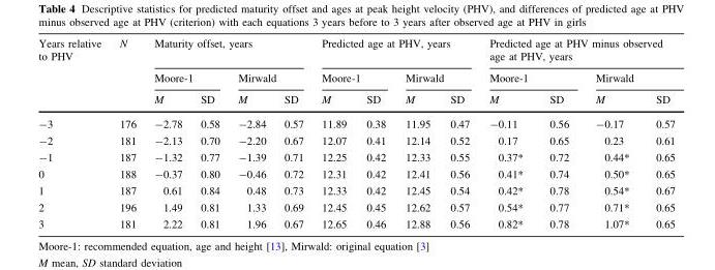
<table><thead><tr><td rowspan="3">Years relative to PHV</td><td rowspan="3">N</td><td colspan="4">Maturity offset, years</td><td colspan="4">Predicted age at PHV, years</td><td colspan="4">Predicted age at PHV minus observed age at PHV, years</td></tr><tr><td colspan="2">Moore-1</td><td colspan="2">Mirwald</td><td colspan="2">Moore-1</td><td colspan="2">Mirwald</td><td colspan="2">Moore-1</td><td colspan="2">Mirwald</td></tr><tr><td>M</td><td>SD</td><td>M</td><td>SD</td><td>M</td><td>SD</td><td>M</td><td>SD</td><td>M</td><td>SD</td><td>M</td><td>SD</td></tr></thead><tbody><tr><td>-3</td><td>176</td><td>-2.78</td><td>0.58</td><td>-2.84</td><td>0.57</td><td>11.89</td><td>0.38</td><td>11.95</td><td>0.47</td><td>-0.11</td><td>0.56</td><td>-0.17</td><td>0.57</td></tr><tr><td>-2</td><td>181</td><td>-2.13</td><td>0.70</td><td>-2.20</td><td>0.67</td><td>12.07</td><td>0.41</td><td>12.14</td><td>0.52</td><td>0.17</td><td>0.65</td><td>0.23</td><td>0.61</td></tr><tr><td>-1</td><td>187</td><td>-1.32</td><td>0.77</td><td>-1.39</td><td>0.71</td><td>12.25</td><td>0.42</td><td>12.33</td><td>0.55</td><td>0.37*</td><td>0.72</td><td>0.44*</td><td>0.65</td></tr><tr><td>0</td><td>188</td><td>-0.37</td><td>0.80</td><td>-0.46</td><td>0.72</td><td>12.31</td><td>0.42</td><td>12.41</td><td>0.56</td><td>0.41*</td><td>0.74</td><td>0.50*</td><td>0.65</td></tr><tr><td>1</td><td>187</td><td>0.61</td><td>0.84</td><td>0.48</td><td>0.73</td><td>12.33</td><td>0.42</td><td>12.45</td><td>0.54</td><td>0.42*</td><td>0.78</td><td>0.54*</td><td>0.67</td></tr><tr><td>2</td><td>196</td><td>1.49</td><td>0.81</td><td>1.33</td><td>0.69</td><td>12.45</td><td>0.45</td><td>12.62</td><td>0.57</td><td>0.54*</td><td>0.77</td><td>0.71*</td><td>0.65</td></tr><tr><td>3</td><td>181</td><td>2.22</td><td>0.81</td><td>1.96</td><td>0.67</td><td>12.65</td><td>0.46</td><td>12.88</td><td>0.56</td><td>0.82*</td><td>0.78</td><td>1.07*</td><td>0.65</td></tr></tbody></table>